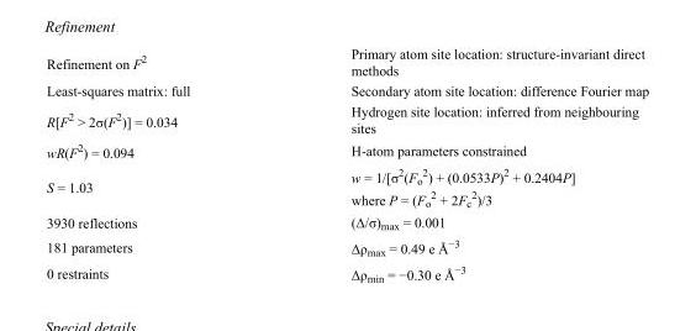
<table><tbody><tr><td>Refinement on F<sup>2</sup></td><td>Primary atom site location: structure-invariant direct methods</td></tr><tr><td>Least-squares matrix: full</td><td>Secondary atom site location: difference Fourier map</td></tr><tr><td>R[F<sup>2</sup> &gt; 2σ(F<sup>2</sup>)] = 0.034</td><td>Hydrogen site location: inferred from neighbouring sites</td></tr><tr><td>wR(F<sup>2</sup>) = 0.094</td><td>H-atom parameters constrained</td></tr><tr><td>S = 1.03</td><td>w = 1/[σ<sup>2</sup>(F<sub>o</sub> <sup>2</sup>) + (0.0533P)<sup>2</sup> + 0.2404P] where P = (F<sub>o</sub> <sup>2</sup> + 2F<sub>c</sub> <sup>2</sup>)/3</td></tr><tr><td>3930 reflections</td><td>(Δ/σ)<sub>max</sub> = 0.001</td></tr><tr><td>181 parameters</td><td>Δρ<sub>max</sub> = 0.49 e Å<sup>−3</sup></td></tr><tr><td>0 restraints</td><td>Δρ<sub>min</sub> = −0.30 e Å<sup>−3</sup></td></tr></tbody></table>